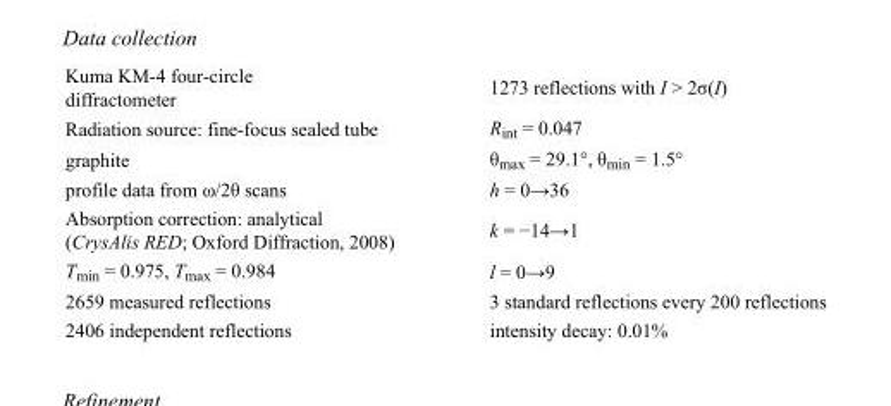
<table><tbody><tr><td>Kuma KM-4 four-circle diffractometer</td><td>1273 reflections with I &gt; 2σ(I)</td></tr><tr><td>Radiation source: fine-focus sealed tube</td><td>R<sub>int</sub> = 0.047</td></tr><tr><td>graphite</td><td>θ<sub>max</sub> = 29.1°, θ<sub>min</sub> = 1.5°</td></tr><tr><td>profile data from ω/2θ scans</td><td>h = 0→36</td></tr><tr><td>Absorption correction: analytical (CrysAlis RED; Oxford Diffraction, 2008)</td><td>k = −14→1</td></tr><tr><td>T<sub>min</sub> = 0.975, T<sub>max</sub> = 0.984</td><td>l = 0→9</td></tr><tr><td>2659 measured reflections</td><td>3 standard reflections every 200 reflections</td></tr><tr><td>2406 independent reflections</td><td>intensity decay: 0.01%</td></tr></tbody></table>